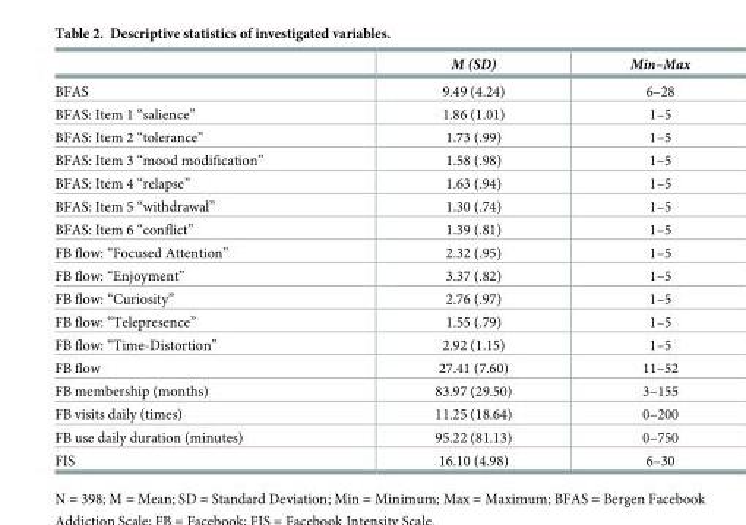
<table><thead><tr><td></td><td>M (SD)</td><td>Min–Max</td></tr></thead><tbody><tr><td>BFAS</td><td>9.49 (4.24)</td><td>6–28</td></tr><tr><td>BFAS: Item 1 “salience”</td><td>1.86 (1.01)</td><td>1–5</td></tr><tr><td>BFAS: Item 2 “tolerance”</td><td>1.73 (.99)</td><td>1–5</td></tr><tr><td>BFAS: Item 3 “mood modification”</td><td>1.58 (.98)</td><td>1–5</td></tr><tr><td>BFAS: Item 4 “relapse”</td><td>1.63 (.94)</td><td>1–5</td></tr><tr><td>BFAS: Item 5 “withdrawal”</td><td>1.30 (.74)</td><td>1–5</td></tr><tr><td>BFAS: Item 6 “conflict”</td><td>1.39 (.81)</td><td>1–5</td></tr><tr><td>FB flow: “Focused Attention”</td><td>2.32 (.95)</td><td>1–5</td></tr><tr><td>FB flow: “Enjoyment”</td><td>3.37 (.82)</td><td>1–5</td></tr><tr><td>FB flow: “Curiosity”</td><td>2.76 (.97)</td><td>1–5</td></tr><tr><td>FB flow: “Telepresence”</td><td>1.55 (.79)</td><td>1–5</td></tr><tr><td>FB flow: “Time-Distortion”</td><td>2.92 (1.15)</td><td>1–5</td></tr><tr><td>FB flow</td><td>27.41 (7.60)</td><td>11–52</td></tr><tr><td>FB membership (months)</td><td>83.97 (29.50)</td><td>3–155</td></tr><tr><td>FB visits daily (times)</td><td>11.25 (18.64)</td><td>0–200</td></tr><tr><td>FB use daily duration (minutes)</td><td>95.22 (81.13)</td><td>0–750</td></tr><tr><td>FIS</td><td>16.10 (4.98)</td><td>6–30</td></tr></tbody></table>